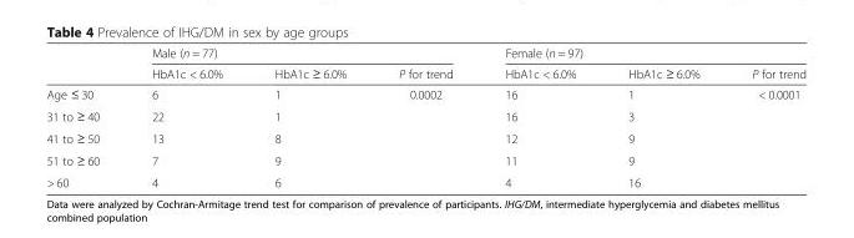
<table><thead><tr><td rowspan="2"></td><td colspan="3">Male (n = 77)</td><td colspan="3">Female (n = 97)</td></tr><tr><td>HbA1c &lt; 6.0%</td><td>HbA1c ≥ 6.0%</td><td>P for trend</td><td>HbA1c &lt; 6.0%</td><td>HbA1c ≥ 6.0%</td><td>P for trend</td></tr></thead><tbody><tr><td>Age ≤ 30</td><td>6</td><td>1</td><td>0.0002</td><td>16</td><td>1</td><td>&lt; 0.0001</td></tr><tr><td>31 to ≥ 40</td><td>22</td><td>1</td><td></td><td>16</td><td>3</td><td></td></tr><tr><td>41 to ≥ 50</td><td>13</td><td>8</td><td></td><td>12</td><td>9</td><td></td></tr><tr><td>51 to ≥ 60</td><td>7</td><td>9</td><td></td><td>11</td><td>9</td><td></td></tr><tr><td>&gt; 60</td><td>4</td><td>6</td><td></td><td>4</td><td>16</td><td></td></tr></tbody></table>